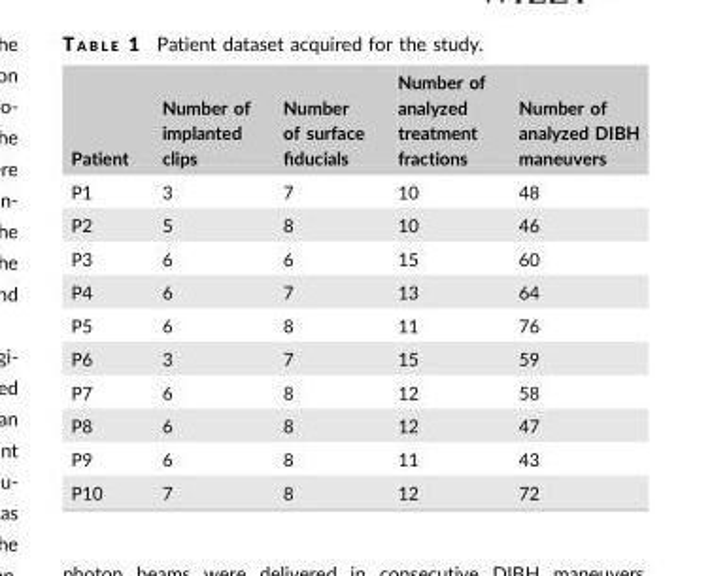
<table><thead><tr><td>Patient</td><td>Number of implanted clips</td><td>Number of surface fiducials</td><td>Number of analyzed treatment fractions</td><td>Number of analyzed DIBH maneuvers</td></tr></thead><tbody><tr><td>P1</td><td>3</td><td>7</td><td>10</td><td>48</td></tr><tr><td>P2</td><td>5</td><td>8</td><td>10</td><td>46</td></tr><tr><td>P3</td><td>6</td><td>6</td><td>15</td><td>60</td></tr><tr><td>P4</td><td>6</td><td>7</td><td>13</td><td>64</td></tr><tr><td>P5</td><td>6</td><td>8</td><td>11</td><td>76</td></tr><tr><td>P6</td><td>3</td><td>7</td><td>15</td><td>59</td></tr><tr><td>P7</td><td>6</td><td>8</td><td>12</td><td>58</td></tr><tr><td>P8</td><td>6</td><td>8</td><td>12</td><td>47</td></tr><tr><td>P9</td><td>6</td><td>8</td><td>11</td><td>43</td></tr><tr><td>P10</td><td>7</td><td>8</td><td>12</td><td>72</td></tr></tbody></table>